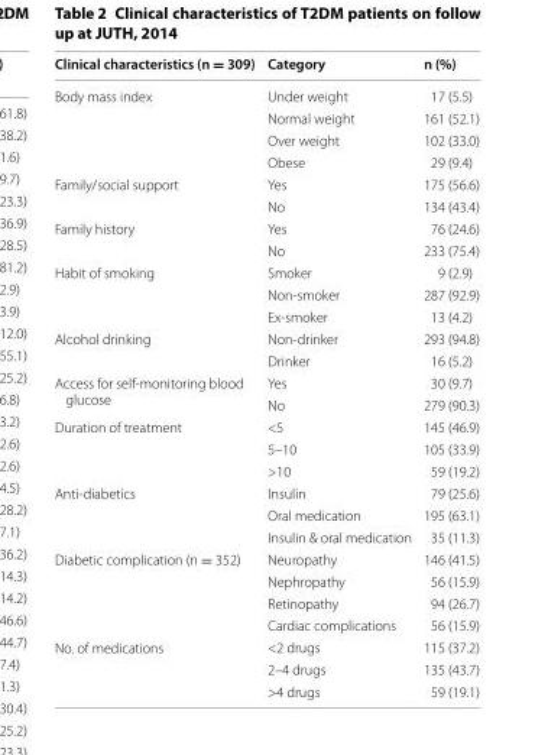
<table><thead><tr><td>Clinical characteristics (n = 309)</td><td>Category</td><td>n (%)</td></tr></thead><tbody><tr><td rowspan="4">Body mass index</td><td>Under weight</td><td>17 (5.5)</td></tr><tr><td>Normal weight</td><td>161 (52.1)</td></tr><tr><td>Over weight</td><td>102 (33.0)</td></tr><tr><td>Obese</td><td>29 (9.4)</td></tr><tr><td rowspan="2">Family/social support</td><td>Yes</td><td>175 (56.6)</td></tr><tr><td>No</td><td>134 (43.4)</td></tr><tr><td rowspan="2">Family history</td><td>Yes</td><td>76 (24.6)</td></tr><tr><td>No</td><td>233 (75.4)</td></tr><tr><td rowspan="3">Habit of smoking</td><td>Smoker</td><td>9 (2.9)</td></tr><tr><td>Non-smoker</td><td>287 (92.9)</td></tr><tr><td>Ex-smoker</td><td>13 (4.2)</td></tr><tr><td rowspan="2">Alcohol drinking</td><td>Non-drinker</td><td>293 (94.8)</td></tr><tr><td>Drinker</td><td>16 (5.2)</td></tr><tr><td rowspan="2">Access for self-monitoring blood glucose</td><td>Yes</td><td>30 (9.7)</td></tr><tr><td>No</td><td>279 (90.3)</td></tr><tr><td rowspan="3">Duration of treatment</td><td>&lt;5</td><td>145 (46.9)</td></tr><tr><td>5–10</td><td>105 (33.9)</td></tr><tr><td>&gt;10</td><td>59 (19.2)</td></tr><tr><td rowspan="3">Anti-diabetics</td><td>Insulin</td><td>79 (25.6)</td></tr><tr><td>Oral medication</td><td>195 (63.1)</td></tr><tr><td>Insulin &amp; oral medication</td><td>35 (11.3)</td></tr><tr><td rowspan="4">Diabetic complication (n = 352)</td><td>Neuropathy</td><td>146 (41.5)</td></tr><tr><td>Nephropathy</td><td>56 (15.9)</td></tr><tr><td>Retinopathy</td><td>94 (26.7)</td></tr><tr><td>Cardiac complications</td><td>56 (15.9)</td></tr><tr><td rowspan="3">No. of medications</td><td>&lt;2 drugs</td><td>115 (37.2)</td></tr><tr><td>2–4 drugs</td><td>135 (43.7)</td></tr><tr><td>&gt;4 drugs</td><td>59 (19.1)</td></tr></tbody></table>